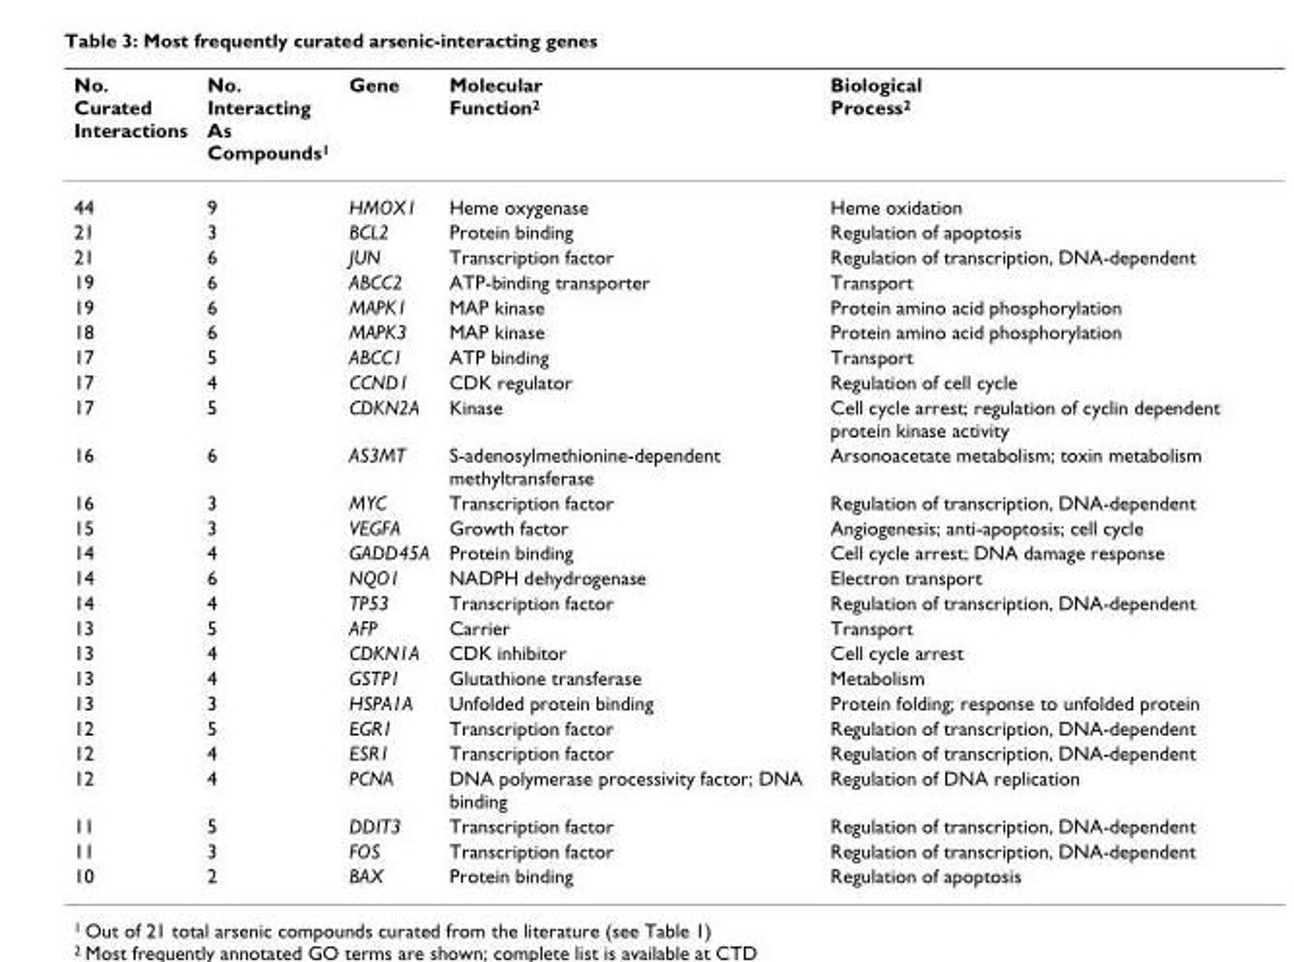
<table><thead><tr><td>No. Curated Interactions</td><td>No. Interacting As Compounds<sup>1</sup></td><td>Gene</td><td>Molecular Function<sup>2</sup></td><td>Biological Process<sup>2</sup></td></tr></thead><tbody><tr><td>44</td><td>9</td><td>HMOX1</td><td>Heme oxygenase</td><td>Heme oxidation</td></tr><tr><td>21</td><td>3</td><td>BCL2</td><td>Protein binding</td><td>Regulation of apoptosis</td></tr><tr><td>21</td><td>6</td><td>JUN</td><td>Transcription factor</td><td>Regulation of transcription, DNA-dependent</td></tr><tr><td>19</td><td>6</td><td>ABCC2</td><td>ATP-binding transporter</td><td>Transport</td></tr><tr><td>19</td><td>6</td><td>MAPK1</td><td>MAP kinase</td><td>Protein amino acid phosphorylation</td></tr><tr><td>18</td><td>6</td><td>MAPK3</td><td>MAP kinase</td><td>Protein amino acid phosphorylation</td></tr><tr><td>17</td><td>5</td><td>ABCC1</td><td>ATP binding</td><td>Transport</td></tr><tr><td>17</td><td>4</td><td>CCND1</td><td>CDK regulator</td><td>Regulation of cell cycle</td></tr><tr><td>17</td><td>5</td><td>CDKN2A</td><td>Kinase</td><td>Cell cycle arrest; regulation of cyclin dependent protein kinase activity</td></tr><tr><td>16</td><td>6</td><td>AS3MT</td><td>S-adenosylmethionine-dependent methyltransferase</td><td>Arsonoacetate metabolism; toxin metabolism</td></tr><tr><td>16</td><td>3</td><td>MYC</td><td>Transcription factor</td><td>Regulation of transcription, DNA-dependent</td></tr><tr><td>15</td><td>3</td><td>VEGFA</td><td>Growth factor</td><td>Angiogenesis; anti-apoptosis; cell cycle</td></tr><tr><td>14</td><td>4</td><td>GADD45A</td><td>Protein binding</td><td>Cell cycle arrest; DNA damage response</td></tr><tr><td>14</td><td>6</td><td>NQO1</td><td>NADPH dehydrogenase</td><td>Electron transport</td></tr><tr><td>14</td><td>4</td><td>TP53</td><td>Transcription factor</td><td>Regulation of transcription, DNA-dependent</td></tr><tr><td>13</td><td>5</td><td>AFP</td><td>Carrier</td><td>Transport</td></tr><tr><td>13</td><td>4</td><td>CDKN1A</td><td>CDK inhibitor</td><td>Cell cycle arrest</td></tr><tr><td>13</td><td>4</td><td>GSTP1</td><td>Glutathione transferase</td><td>Metabolism</td></tr><tr><td>13</td><td>3</td><td>HSPA1A</td><td>Unfolded protein binding</td><td>Protein folding; response to unfolded protein</td></tr><tr><td>12</td><td>5</td><td>EGR1</td><td>Transcription factor</td><td>Regulation of transcription, DNA-dependent</td></tr><tr><td>12</td><td>4</td><td>ESR1</td><td>Transcription factor</td><td>Regulation of transcription, DNA-dependent</td></tr><tr><td>12</td><td>4</td><td>PCNA</td><td>DNA polymerase processivity factor; DNA binding</td><td>Regulation of DNA replication</td></tr><tr><td>11</td><td>5</td><td>DDIT3</td><td>Transcription factor</td><td>Regulation of transcription, DNA-dependent</td></tr><tr><td>11</td><td>3</td><td>FOS</td><td>Transcription factor</td><td>Regulation of transcription, DNA-dependent</td></tr><tr><td>10</td><td>2</td><td>BAX</td><td>Protein binding</td><td>Regulation of apoptosis</td></tr></tbody></table>